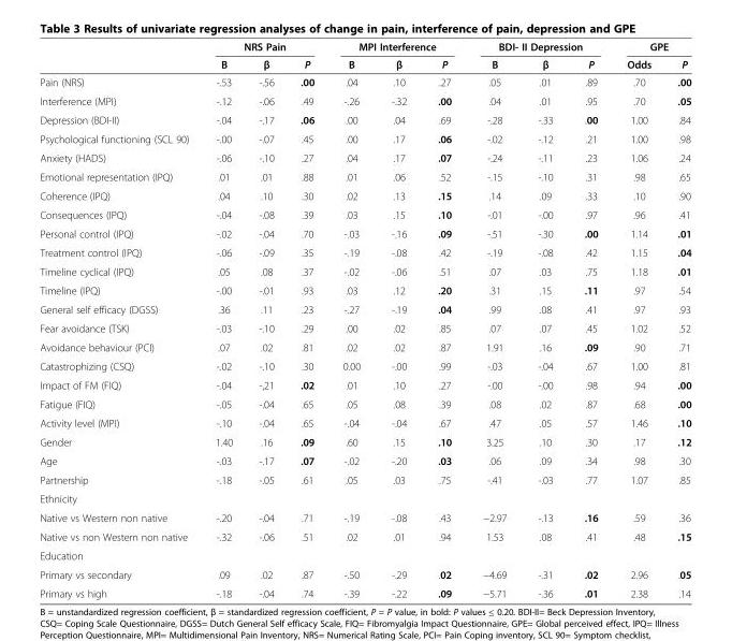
<table><thead><tr><td rowspan="2"></td><td colspan="3">NRS Pain</td><td colspan="3">MPI Interference</td><td colspan="3">BDI- II Depression</td><td colspan="2">GPE</td></tr><tr><td>B</td><td>β</td><td>P</td><td>B</td><td>β</td><td>P</td><td>B</td><td>β</td><td>P</td><td>Odds</td><td>P</td></tr></thead><tbody><tr><td>Pain (NRS)</td><td>-.53</td><td>-.56</td><td>.00</td><td>.04</td><td>.10</td><td>.27</td><td>.05</td><td>.01</td><td>.89</td><td>.70</td><td>.00</td></tr><tr><td>Interference (MPI)</td><td>-.12</td><td>-.06</td><td>.49</td><td>-.26</td><td>-.32</td><td>.00</td><td>.04</td><td>.01</td><td>.95</td><td>.70</td><td>.05</td></tr><tr><td>Depression (BDI-II)</td><td>-.04</td><td>-.17</td><td>.06</td><td>.00</td><td>.04</td><td>.69</td><td>-.28</td><td>-.33</td><td>.00</td><td>1.00</td><td>.84</td></tr><tr><td>Psychological functioning (SCL 90)</td><td>-.00</td><td>-.07</td><td>.45</td><td>.00</td><td>.17</td><td>.06</td><td>-.02</td><td>-.12</td><td>.21</td><td>1.00</td><td>.98</td></tr><tr><td>Anxiety (HADS)</td><td>-.06</td><td>-.10</td><td>.27</td><td>.04</td><td>.17</td><td>.07</td><td>-.24</td><td>-.11</td><td>.23</td><td>1.06</td><td>.24</td></tr><tr><td>Emotional representation (IPQ)</td><td>.01</td><td>.01</td><td>.88</td><td>.01</td><td>.06</td><td>.52</td><td>-.15</td><td>-.10</td><td>.31</td><td>.98</td><td>.65</td></tr><tr><td>Coherence (IPQ)</td><td>.04</td><td>.10</td><td>.30</td><td>.02</td><td>.13</td><td>.15</td><td>.14</td><td>.09</td><td>.33</td><td>.10</td><td>.90</td></tr><tr><td>Consequences (IPQ)</td><td>-.04</td><td>-.08</td><td>.39</td><td>.03</td><td>.15</td><td>.10</td><td>-.01</td><td>-.00</td><td>.97</td><td>.96</td><td>.41</td></tr><tr><td>Personal control (IPQ)</td><td>-.02</td><td>-.04</td><td>.70</td><td>-.03</td><td>-.16</td><td>.09</td><td>-.51</td><td>-.30</td><td>.00</td><td>1.14</td><td>.01</td></tr><tr><td>Treatment control (IPQ)</td><td>-.06</td><td>-.09</td><td>.35</td><td>-.19</td><td>-.08</td><td>.42</td><td>-.19</td><td>-.08</td><td>.42</td><td>1.15</td><td>.04</td></tr><tr><td>Timeline cyclical (IPQ)</td><td>.05</td><td>.08</td><td>.37</td><td>-.02</td><td>-.06</td><td>.51</td><td>.07</td><td>.03</td><td>.75</td><td>1.18</td><td>.01</td></tr><tr><td>Timeline (IPQ)</td><td>-.00</td><td>-.01</td><td>.93</td><td>.03</td><td>.12</td><td>.20</td><td>.31</td><td>.15</td><td>.11</td><td>.97</td><td>.54</td></tr><tr><td>General self efficacy (DGSS)</td><td>.36</td><td>.11</td><td>.23</td><td>-.27</td><td>-.19</td><td>.04</td><td>.99</td><td>.08</td><td>.41</td><td>.97</td><td>.93</td></tr><tr><td>Fear avoidance (TSK)</td><td>-.03</td><td>-.10</td><td>.29</td><td>.00</td><td>.02</td><td>.85</td><td>.07</td><td>.07</td><td>.45</td><td>1.02</td><td>.52</td></tr><tr><td>Avoidance behaviour (PCI)</td><td>.07</td><td>.02</td><td>.81</td><td>.02</td><td>.02</td><td>.87</td><td>1.91</td><td>.16</td><td>.09</td><td>.90</td><td>.71</td></tr><tr><td>Catastrophizing (CSQ)</td><td>-.02</td><td>-.10</td><td>.30</td><td>0.00</td><td>-.00</td><td>.99</td><td>-.03</td><td>-.04</td><td>.67</td><td>1.00</td><td>.81</td></tr><tr><td>Impact of FM (FIQ)</td><td>-.04</td><td>-,21</td><td>.02</td><td>.01</td><td>.10</td><td>.27</td><td>-.00</td><td>-.00</td><td>.98</td><td>.94</td><td>.00</td></tr><tr><td>Fatigue (FIQ)</td><td>-.05</td><td>-.04</td><td>.65</td><td>.05</td><td>.08</td><td>.39</td><td>.08</td><td>.02</td><td>.87</td><td>.68</td><td>.00</td></tr><tr><td>Activity level (MPI)</td><td>-.10</td><td>-.04</td><td>.65</td><td>-.04</td><td>-.04</td><td>.67</td><td>.47</td><td>.05</td><td>.57</td><td>1.46</td><td>.10</td></tr><tr><td>Gender</td><td>1.40</td><td>.16</td><td>.09</td><td>.60</td><td>.15</td><td>.10</td><td>3.25</td><td>.10</td><td>.30</td><td>.17</td><td>.12</td></tr><tr><td>Age</td><td>-.03</td><td>-.17</td><td>.07</td><td>-.02</td><td>-.20</td><td>.03</td><td>.06</td><td>.09</td><td>.34</td><td>.98</td><td>.30</td></tr><tr><td>Partnership</td><td>-.18</td><td>-.05</td><td>.61</td><td>.05</td><td>.03</td><td>.75</td><td>-.41</td><td>-.03</td><td>.77</td><td>1.07</td><td>.85</td></tr><tr><td colspan="12">Ethnicity</td></tr><tr><td>Native vs Western non native</td><td>-.20</td><td>-.04</td><td>.71</td><td>-.19</td><td>-.08</td><td>.43</td><td>−2.97</td><td>-.13</td><td>.16</td><td>.59</td><td>.36</td></tr><tr><td>Native vs non Western non native</td><td>-.32</td><td>-.06</td><td>.51</td><td>.02</td><td>.01</td><td>.94</td><td>1.53</td><td>.08</td><td>.41</td><td>.48</td><td>.15</td></tr><tr><td colspan="12">Education</td></tr><tr><td>Primary vs secondary</td><td>.09</td><td>.02</td><td>.87</td><td>-.50</td><td>-.29</td><td>.02</td><td>−4.69</td><td>-.31</td><td>.02</td><td>2.96</td><td>.05</td></tr><tr><td>Primary vs high</td><td>-.18</td><td>-.04</td><td>.74</td><td>-.39</td><td>-.22</td><td>.09</td><td>−5.71</td><td>-.36</td><td>.01</td><td>2.38</td><td>.14</td></tr></tbody></table>